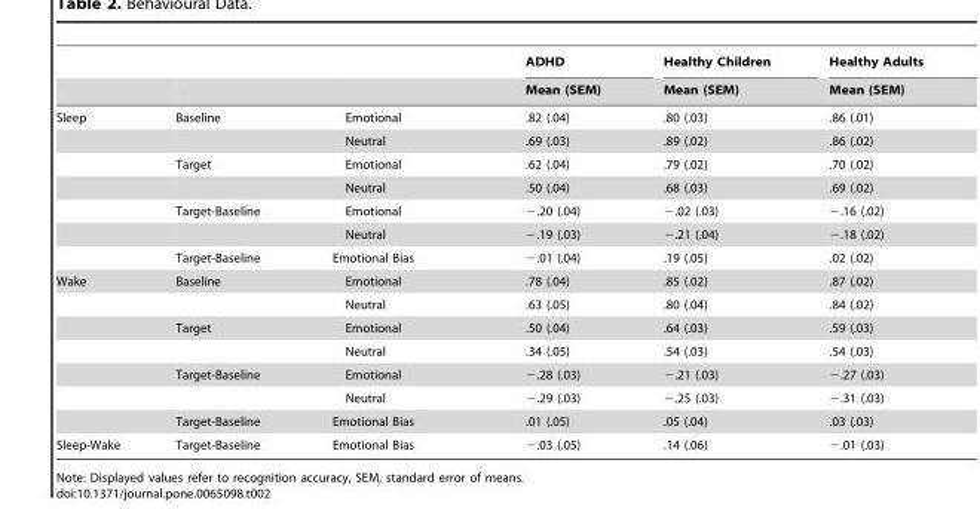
<table><thead><tr><td rowspan="2"></td><td rowspan="2"></td><td rowspan="2"></td><td rowspan="2">ADHD Mean (SEM)</td><td rowspan="2">Healthy Children Mean (SEM)</td><td rowspan="2">Healthy Adults Mean (SEM)</td></tr><tr></tr></thead><tbody><tr><td rowspan="7">Sleep</td><td>Baseline</td><td>Emotional</td><td>.82 (.04)</td><td>.80 (.03)</td><td>.86 (.01)</td></tr><tr><td></td><td>Neutral</td><td>.69 (.03)</td><td>.89 (.02)</td><td>.86 (.02)</td></tr><tr><td>Target</td><td>Emotional</td><td>.62 (.04)</td><td>.79 (.02)</td><td>.70 (.02)</td></tr><tr><td></td><td>Neutral</td><td>.50 (.04)</td><td>.68 (.03)</td><td>.69 (.02)</td></tr><tr><td>Target-Baseline</td><td>Emotional</td><td>−.20 (.04)</td><td>−.02 (.03)</td><td>−.16 (.02)</td></tr><tr><td></td><td>Neutral</td><td>−.19 (.03)</td><td>−.21 (.04)</td><td>−.18 (.02)</td></tr><tr><td>Target-Baseline</td><td>Emotional Bias</td><td>−.01 (.04)</td><td>.19 (.05)</td><td>.02 (.02)</td></tr><tr><td rowspan="7">Wake</td><td>Baseline</td><td>Emotional</td><td>.78 (.04)</td><td>.85 (.02)</td><td>.87 (.02)</td></tr><tr><td></td><td>Neutral</td><td>.63 (.05)</td><td>.80 (.04)</td><td>.84 (.02)</td></tr><tr><td>Target</td><td>Emotional</td><td>.50 (.04)</td><td>.64 (.03)</td><td>.59 (.03)</td></tr><tr><td></td><td>Neutral</td><td>.34 (.05)</td><td>.54 (.03)</td><td>.54 (.03)</td></tr><tr><td>Target-Baseline</td><td>Emotional</td><td>−.28 (.03)</td><td>−.21 (.03)</td><td>−.27 (.03)</td></tr><tr><td></td><td>Neutral</td><td>−.29 (.03)</td><td>−.25 (.03)</td><td>−.31 (.03)</td></tr><tr><td>Target-Baseline</td><td>Emotional Bias</td><td>.01 (.05)</td><td>.05 (.04)</td><td>.03 (.03)</td></tr><tr><td>Sleep-Wake</td><td>Target-Baseline</td><td>Emotional Bias</td><td>−.03 (.05)</td><td>.14 (.06)</td><td>−.01 (.03)</td></tr></tbody></table>